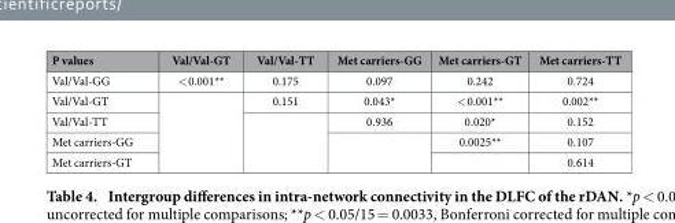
<table><thead><tr><td>P values</td><td>Val/Val-GT</td><td>Val/Val-TT</td><td>Met carriers-GG</td><td>Met carriers-GT</td><td>Met carriers-TT</td></tr></thead><tbody><tr><td>Val/Val-GG</td><td>&lt; 0.001**</td><td>0.175</td><td>0.097</td><td>0.242</td><td>0.724</td></tr><tr><td>Val/Val-GT</td><td rowspan="4"></td><td>0.151</td><td>0.043*</td><td>&lt; 0.001**</td><td>0.002**</td></tr><tr><td>Val/Val-TT</td><td rowspan="3"></td><td>0.936</td><td>0.020*</td><td>0.152</td></tr><tr><td>Met carriers-GG</td><td rowspan="2"></td><td>0.0025**</td><td>0.107</td></tr><tr><td>Met carriers-GT</td><td></td><td>0.614</td></tr></tbody></table>